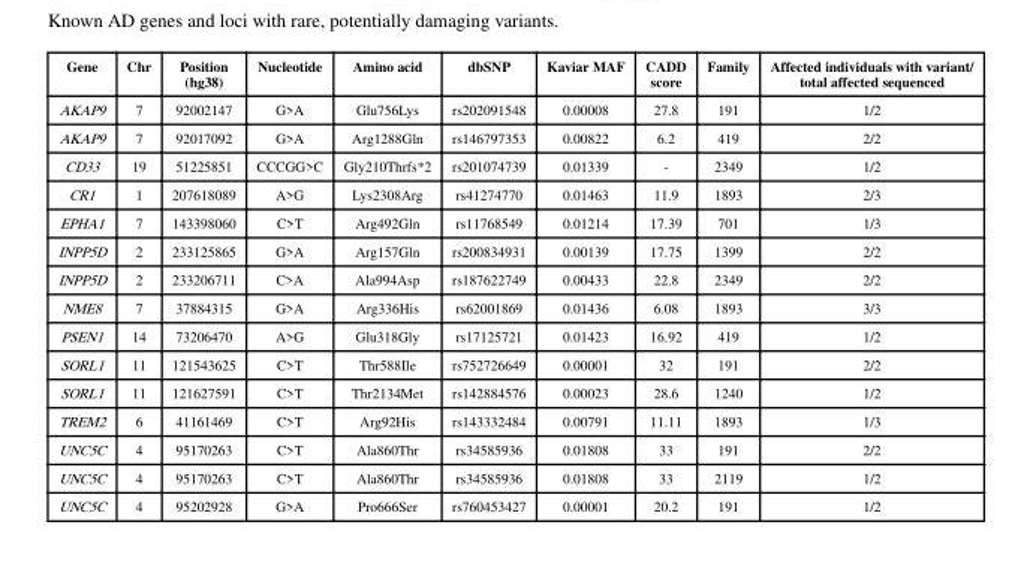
<table><thead><tr><td>Gene</td><td>Chr</td><td>Position (hg38)</td><td>Nucleotide</td><td>Amino acid</td><td>dbSNP</td><td>Kaviar MAF</td><td>CADD score</td><td>Family</td><td>Affected individuals with variant/ total affected sequenced</td></tr></thead><tbody><tr><td>AKAP9</td><td>7</td><td>92002147</td><td>G&gt;A</td><td>Glu756Lys</td><td>rs202091548</td><td>0.00008</td><td>27.8</td><td>191</td><td>1/2</td></tr><tr><td>AKAP9</td><td>7</td><td>92017092</td><td>G&gt;A</td><td>Arg1288Gln</td><td>rs146797353</td><td>0.00822</td><td>6.2</td><td>419</td><td>2/2</td></tr><tr><td>CD33</td><td>19</td><td>51225851</td><td>CCCGG&gt;C</td><td>Gly210Thrfs*2</td><td>rs201074739</td><td>0.01339</td><td>-</td><td>2349</td><td>1/2</td></tr><tr><td>CR1</td><td>1</td><td>207618089</td><td>A&gt;G</td><td>Lys2308Arg</td><td>rs41274770</td><td>0.01463</td><td>11.9</td><td>1893</td><td>2/3</td></tr><tr><td>EPHA1</td><td>7</td><td>143398060</td><td>C&gt;T</td><td>Arg492Gln</td><td>rs11768549</td><td>0.01214</td><td>17.39</td><td>701</td><td>1/3</td></tr><tr><td>INPP5D</td><td>2</td><td>233125865</td><td>G&gt;A</td><td>Arg157Gln</td><td>rs200834931</td><td>0.00139</td><td>17.75</td><td>1399</td><td>2/2</td></tr><tr><td>INPP5D</td><td>2</td><td>233206711</td><td>C&gt;A</td><td>Ala994Asp</td><td>rs187622749</td><td>0.00433</td><td>22.8</td><td>2349</td><td>2/2</td></tr><tr><td>NME8</td><td>7</td><td>37884315</td><td>G&gt;A</td><td>Arg336His</td><td>rs62001869</td><td>0.01436</td><td>6.08</td><td>1893</td><td>3/3</td></tr><tr><td>PSEN1</td><td>14</td><td>73206470</td><td>A&gt;G</td><td>Glu318Gly</td><td>rs17125721</td><td>0.01423</td><td>16.92</td><td>419</td><td>1/2</td></tr><tr><td>SORL1</td><td>11</td><td>121543625</td><td>C&gt;T</td><td>Thr588Ile</td><td>rs752726649</td><td>0.00001</td><td>32</td><td>191</td><td>2/2</td></tr><tr><td>SORL1</td><td>11</td><td>121627591</td><td>C&gt;T</td><td>Thr2134Met</td><td>rs142884576</td><td>0.00023</td><td>28.6</td><td>1240</td><td>1/2</td></tr><tr><td>TREM2</td><td>6</td><td>41161469</td><td>C&gt;T</td><td>Arg92His</td><td>rs143332484</td><td>0.00791</td><td>11.11</td><td>1893</td><td>1/3</td></tr><tr><td>UNC5C</td><td>4</td><td>95170263</td><td>C&gt;T</td><td>Ala860Thr</td><td>rs34585936</td><td>0.01808</td><td>33</td><td>191</td><td>2/2</td></tr><tr><td>UNC5C</td><td>4</td><td>95170263</td><td>C&gt;T</td><td>Ala860Thr</td><td>rs34585936</td><td>0.01808</td><td>33</td><td>2119</td><td>1/2</td></tr><tr><td>UNC5C</td><td>4</td><td>95202928</td><td>G&gt;A</td><td>Pro666Ser</td><td>rs760453427</td><td>0.00001</td><td>20.2</td><td>191</td><td>1/2</td></tr></tbody></table>